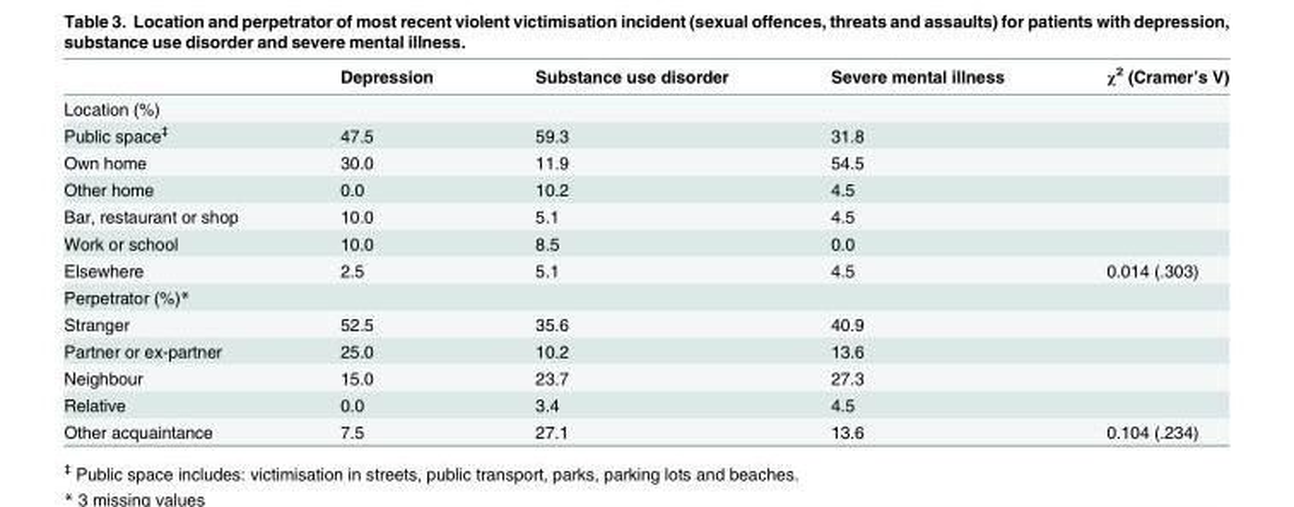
<table><thead><tr><td></td><td>Depression</td><td>Substance use disorder</td><td>Severe mental illness</td><td>χ<sup>2</sup> (Cramer’s V)</td></tr></thead><tbody><tr><td colspan="5">Location (%)</td></tr><tr><td>Public space<sup>‡</sup></td><td>47.5</td><td>59.3</td><td>31.8</td><td></td></tr><tr><td>Own home</td><td>30.0</td><td>11.9</td><td>54.5</td><td></td></tr><tr><td>Other home</td><td>0.0</td><td>10.2</td><td>4.5</td><td></td></tr><tr><td>Bar, restaurant or shop</td><td>10.0</td><td>5.1</td><td>4.5</td><td></td></tr><tr><td>Work or school</td><td>10.0</td><td>8.5</td><td>0.0</td><td></td></tr><tr><td>Elsewhere</td><td>2.5</td><td>5.1</td><td>4.5</td><td>0.014 (.303)</td></tr><tr><td colspan="5">Perpetrator (%)*</td></tr><tr><td>Stranger</td><td>52.5</td><td>35.6</td><td>40.9</td><td></td></tr><tr><td>Partner or ex-partner</td><td>25.0</td><td>10.2</td><td>13.6</td><td></td></tr><tr><td>Neighbour</td><td>15.0</td><td>23.7</td><td>27.3</td><td></td></tr><tr><td>Relative</td><td>0.0</td><td>3.4</td><td>4.5</td><td></td></tr><tr><td>Other acquaintance</td><td>7.5</td><td>27.1</td><td>13.6</td><td>0.104 (.234)</td></tr></tbody></table>